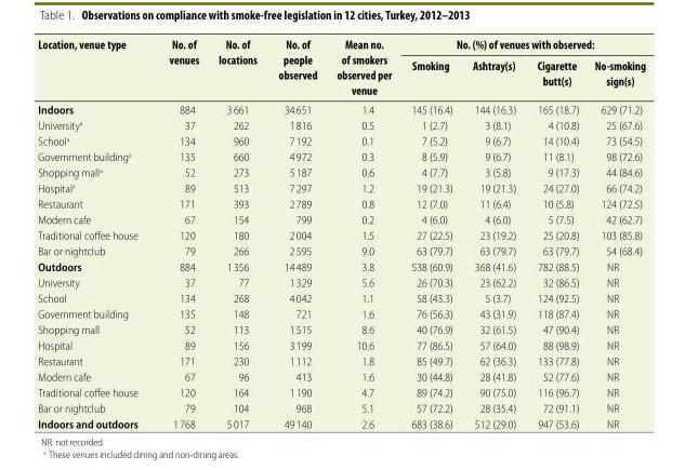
<table><thead><tr><td rowspan="2">Location, venue type</td><td rowspan="2">No. of venues</td><td rowspan="2">No. of locations</td><td rowspan="2">No. of people observed</td><td rowspan="2">Mean no. of smokers observed per venue</td><td colspan="4">No. (%) of venues with observed:</td></tr><tr><td>Smoking</td><td>Ashtray(s)</td><td>Cigarette butt(s)</td><td>No-smoking sign(s)</td></tr></thead><tbody><tr><td>Indoors</td><td>884</td><td>3 661</td><td>34 651</td><td>1.4</td><td>145 (16.4)</td><td>144 (16.3)</td><td>165 (18.7)</td><td>629 (71.2)</td></tr><tr><td>University<sup>a</sup></td><td>37</td><td>262</td><td>1 816</td><td>0.5</td><td>1 (2.7)</td><td>3 (8.1)</td><td>4 (10.8)</td><td>25 (67.6)</td></tr><tr><td>School<sup>a</sup></td><td>134</td><td>960</td><td>7 192</td><td>0.1</td><td>7 (5.2)</td><td>9 (6.7)</td><td>14 (10.4)</td><td>73 (54.5)</td></tr><tr><td>Government building<sup>a</sup></td><td>135</td><td>660</td><td>4 972</td><td>0.3</td><td>8 (5.9)</td><td>9 (6.7)</td><td>11 (8.1)</td><td>98 (72.6)</td></tr><tr><td>Shopping mall<sup>a</sup></td><td>52</td><td>273</td><td>5 187</td><td>0.6</td><td>4 (7.7)</td><td>3 (5.8)</td><td>9 (17.3)</td><td>44 (84.6)</td></tr><tr><td>Hospital<sup>a</sup></td><td>89</td><td>513</td><td>7 297</td><td>1.2</td><td>19 (21.3)</td><td>19 (21.3)</td><td>24 (27.0)</td><td>66 (74.2)</td></tr><tr><td>Restaurant</td><td>171</td><td>393</td><td>2 789</td><td>0.8</td><td>12 (7.0)</td><td>11 (6.4)</td><td>10 (5.8)</td><td>124 (72.5)</td></tr><tr><td>Modern cafe</td><td>67</td><td>154</td><td>799</td><td>0.2</td><td>4 (6.0)</td><td>4 (6.0)</td><td>5 (7.5)</td><td>42 (62.7)</td></tr><tr><td>Traditional coffee house</td><td>120</td><td>180</td><td>2 004</td><td>1.5</td><td>27 (22.5)</td><td>23 (19.2)</td><td>25 (20.8)</td><td>103 (85.8)</td></tr><tr><td>Bar or nightclub</td><td>79</td><td>266</td><td>2 595</td><td>9.0</td><td>63 (79.7)</td><td>63 (79.7)</td><td>63 (79.7)</td><td>54 (68.4)</td></tr><tr><td>Outdoors</td><td>884</td><td>1 356</td><td>14 489</td><td>3.8</td><td>538 (60.9)</td><td>368 (41.6)</td><td>782 (88.5)</td><td>NR</td></tr><tr><td>University</td><td>37</td><td>77</td><td>1 329</td><td>5.6</td><td>26 (70.3)</td><td>23 (62.2)</td><td>32 (86.5)</td><td>NR</td></tr><tr><td>School</td><td>134</td><td>268</td><td>4 042</td><td>1.1</td><td>58 (43.3)</td><td>5 (3.7)</td><td>124 (92.5)</td><td>NR</td></tr><tr><td>Government building</td><td>135</td><td>148</td><td>721</td><td>1.6</td><td>76 (56.3)</td><td>43 (31.9)</td><td>118 (87.4)</td><td>NR</td></tr><tr><td>Shopping mall</td><td>52</td><td>113</td><td>1 515</td><td>8.6</td><td>40 (76.9)</td><td>32 (61.5)</td><td>47 (90.4)</td><td>NR</td></tr><tr><td>Hospital</td><td>89</td><td>156</td><td>3 199</td><td>10.6</td><td>77 (86.5)</td><td>57 (64.0)</td><td>88 (98.9)</td><td>NR</td></tr><tr><td>Restaurant</td><td>171</td><td>230</td><td>1 112</td><td>1.8</td><td>85 (49.7)</td><td>62 (36.3)</td><td>133 (77.8)</td><td>NR</td></tr><tr><td>Modern cafe</td><td>67</td><td>96</td><td>413</td><td>1.6</td><td>30 (44.8)</td><td>28 (41.8)</td><td>52 (77.6)</td><td>NR</td></tr><tr><td>Traditional coffee house</td><td>120</td><td>164</td><td>1 190</td><td>4.7</td><td>89 (74.2)</td><td>90 (75.0)</td><td>116 (96.7)</td><td>NR</td></tr><tr><td>Bar or nightclub</td><td>79</td><td>104</td><td>968</td><td>5.1</td><td>57 (72.2)</td><td>28 (35.4)</td><td>72 (91.1)</td><td>NR</td></tr><tr><td>Indoors and outdoors</td><td>1 768</td><td>5 017</td><td>49 140</td><td>2.6</td><td>683 (38.6)</td><td>512 (29.0)</td><td>947 (53.6)</td><td>NR</td></tr></tbody></table>